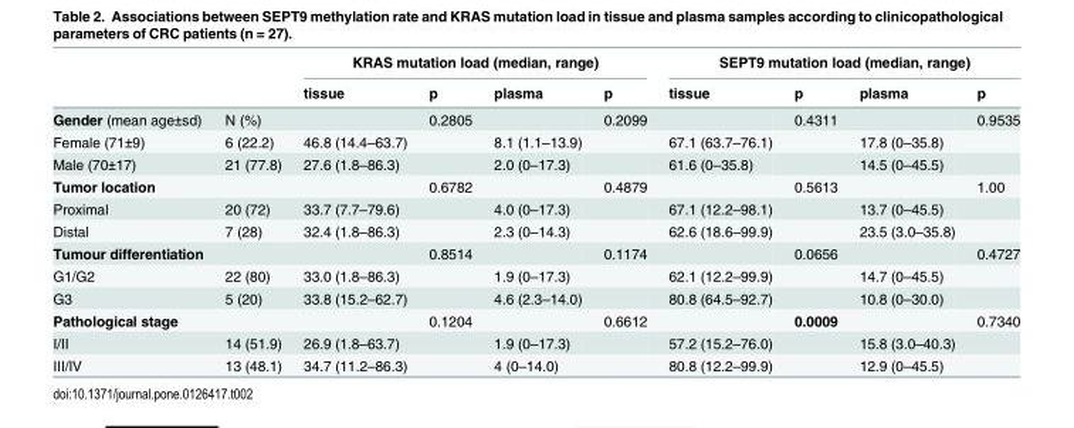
<table><thead><tr><td rowspan="2"></td><td rowspan="2"></td><td colspan="4">KRAS mutation load (median, range)</td><td colspan="4">SEPT9 mutation load (median, range)</td></tr><tr><td>tissue</td><td>p</td><td>plasma</td><td>p</td><td>tissue</td><td>p</td><td>plasma</td><td>p</td></tr></thead><tbody><tr><td>Gender (mean age±sd)</td><td>N (%)</td><td></td><td>0.2805</td><td></td><td>0.2099</td><td></td><td>0.4311</td><td></td><td>0.9535</td></tr><tr><td>Female (71±9)</td><td>6 (22.2)</td><td>46.8 (14.4–63.7)</td><td></td><td>8.1 (1.1–13.9)</td><td></td><td>67.1 (63.7–76.1)</td><td></td><td>17.8 (0–35.8)</td><td></td></tr><tr><td>Male (70±17)</td><td>21 (77.8)</td><td>27.6 (1.8–86.3)</td><td></td><td>2.0 (0–17.3)</td><td></td><td>61.6 (0–35.8)</td><td></td><td>14.5 (0–45.5)</td><td></td></tr><tr><td>Tumor location</td><td></td><td></td><td>0.6782</td><td></td><td>0.4879</td><td></td><td>0.5613</td><td></td><td>1.00</td></tr><tr><td>Proximal</td><td>20 (72)</td><td>33.7 (7.7–79.6)</td><td></td><td>4.0 (0–17.3)</td><td></td><td>67.1 (12.2–98.1)</td><td></td><td>13.7 (0–45.5)</td><td></td></tr><tr><td>Distal</td><td>7 (28)</td><td>32.4 (1.8–86.3)</td><td></td><td>2.3 (0–14.3)</td><td></td><td>62.6 (18.6–99.9)</td><td></td><td>23.5 (3.0–35.8)</td><td></td></tr><tr><td>Tumour differentiation</td><td></td><td></td><td>0.8514</td><td></td><td>0.1174</td><td></td><td>0.0656</td><td></td><td>0.4727</td></tr><tr><td>G1/G2</td><td>22 (80)</td><td>33.0 (1.8–86.3)</td><td></td><td>1.9 (0–17.3)</td><td></td><td>62.1 (12.2–99.9)</td><td></td><td>14.7 (0–45.5)</td><td></td></tr><tr><td>G3</td><td>5 (20)</td><td>33.8 (15.2–62.7)</td><td></td><td>4.6 (2.3–14.0)</td><td></td><td>80.8 (64.5–92.7)</td><td></td><td>10.8 (0–30.0)</td><td></td></tr><tr><td>Pathological stage</td><td></td><td></td><td>0.1204</td><td></td><td>0.6612</td><td></td><td>0.0009</td><td></td><td>0.7340</td></tr><tr><td>I/II</td><td>14 (51.9)</td><td>26.9 (1.8–63.7)</td><td></td><td>1.9 (0–17.3)</td><td></td><td>57.2 (15.2–76.0)</td><td></td><td>15.8 (3.0–40.3)</td><td></td></tr><tr><td>III/IV</td><td>13 (48.1)</td><td>34.7 (11.2–86.3)</td><td></td><td>4 (0–14.0)</td><td></td><td>80.8 (12.2–99.9)</td><td></td><td>12.9 (0–45.5)</td><td></td></tr></tbody></table>